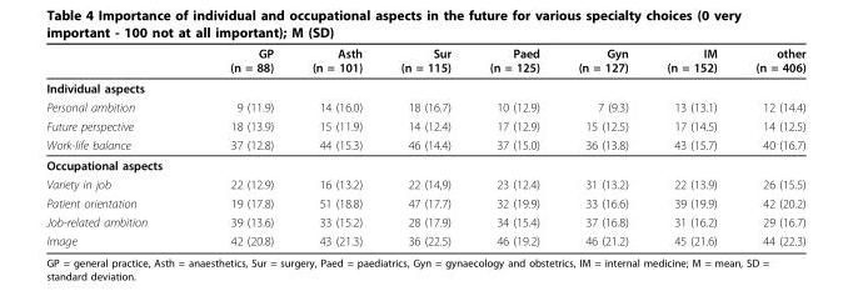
<table><thead><tr><td></td><td>GP (n = 88)</td><td>Asth (n = 101)</td><td>Sur (n = 115)</td><td>Paed (n = 125)</td><td>Gyn (n = 127)</td><td>IM (n = 152)</td><td>other (n = 406)</td></tr></thead><tbody><tr><td colspan="8">Individual aspects</td></tr><tr><td>Personal ambition</td><td>9 (11.9)</td><td>14 (16.0)</td><td>18 (16.7)</td><td>10 (12.9)</td><td>7 (9.3)</td><td>13 (13.1)</td><td>12 (14.4)</td></tr><tr><td>Future perspective</td><td>18 (13.9)</td><td>15 (11.9)</td><td>14 (12.4)</td><td>17 (12.9)</td><td>15 (12.5)</td><td>17 (14.5)</td><td>14 (12.5)</td></tr><tr><td>Work-life balance</td><td>37 (12.8)</td><td>44 (15.3)</td><td>46 (14.4)</td><td>37 (15.0)</td><td>36 (13.8)</td><td>43 (15.7)</td><td>40 (16.7)</td></tr><tr><td colspan="8">Occupational aspects</td></tr><tr><td>Variety in job</td><td>22 (12.9)</td><td>16 (13.2)</td><td>22 (14,9)</td><td>23 (12.4)</td><td>31 (13.2)</td><td>22 (13.9)</td><td>26 (15.5)</td></tr><tr><td>Patient orientation</td><td>19 (17.8)</td><td>51 (18.8)</td><td>47 (17.7)</td><td>32 (19.9)</td><td>33 (16.6)</td><td>39 (19.9)</td><td>42 (20.2)</td></tr><tr><td>Job-related ambition</td><td>39 (13.6)</td><td>33 (15.2)</td><td>28 (17.9)</td><td>34 (15.4)</td><td>37 (16.8)</td><td>31 (16.2)</td><td>29 (16.7)</td></tr><tr><td>Image</td><td>42 (20.8)</td><td>43 (21.3)</td><td>36 (22.5)</td><td>46 (19.2)</td><td>46 (21.2)</td><td>45 (21.6)</td><td>44 (22.3)</td></tr></tbody></table>